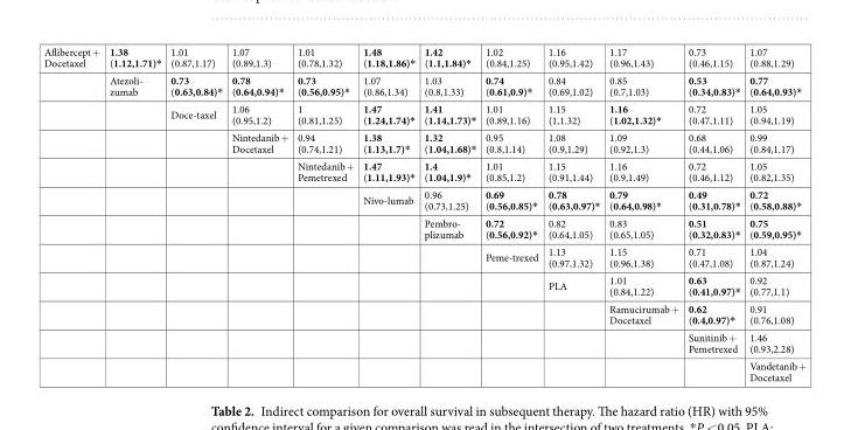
<table><tbody><tr><td rowspan="12">Aflibercept + Docetaxel</td><td>1.38 (1.12,1.71)*</td><td>1.01 (0.87,1.17)</td><td>1.07 (0.89,1.3)</td><td>1.01 (0.78,1.32)</td><td>1.48 (1.18,1.86)*</td><td>1.42 (1.1,1.84)*</td><td>1.02 (0.84,1.25)</td><td>1.16 (0.95,1.42)</td><td>1.17 (0.96,1.43)</td><td>0.73 (0.46,1.15)</td><td>1.07 (0.88,1.29)</td></tr><tr><td>Atezoli- zumab</td><td>0.73 (0.63,0.84)*</td><td>0.78 (0.64,0.94)*</td><td>0.73 (0.56,0.95)*</td><td>1.07 (0.86,1.34)</td><td>1.03 (0.8,1.33)</td><td>0.74 (0.61,0.9)*</td><td>0.84 (0.69,1.02)</td><td>0.85 (0.7,1.03)</td><td>0.53 (0.34,0.83)*</td><td>0.77 (0.64,0.93)*</td></tr><tr><td></td><td>Doce-taxel</td><td>1.06 (0.95,1.2)</td><td>1 (0.81,1.25)</td><td>1.47 (1.24,1.74)*</td><td>1.41 (1.14,1.73)*</td><td>1.01 (0.89,1.16)</td><td>1.15 (1,1.32)</td><td>1.16 (1.02,1.32)*</td><td>0.72 (0.47,1.11)</td><td>1.05 (0.94,1.19)</td></tr><tr><td></td><td></td><td>Nintedanib + Docetaxel</td><td>0.94 (0.74,1.21)</td><td>1.38 (1.13,1.7)*</td><td>1.32 (1.04,1.68)*</td><td>0.95 (0.8,1.14)</td><td>1.08 (0.9,1.29)</td><td>1.09 (0.92,1.3)</td><td>0.68 (0.44,1.06)</td><td>0.99 (0.84,1.17)</td></tr><tr><td></td><td></td><td></td><td>Nintedanib + Pemetrexed</td><td>1.47 (1.11,1.93)*</td><td>1.4 (1.04,1.9)*</td><td>1.01 (0.85,1.2)</td><td>1.15 (0.91,1.44)</td><td>1.16 (0.9,1.49)</td><td>0.72 (0.46,1.12)</td><td>1.05 (0.82,1.35)</td></tr><tr><td></td><td></td><td></td><td></td><td>Nivo-lumab</td><td>0.96 (0.73,1.25)</td><td>0.69 (0.56,0.85)*</td><td>0.78 (0.63,0.97)*</td><td>0.79 (0.64,0.98)*</td><td>0.49 (0.31,0.78)*</td><td>0.72 (0.58,0.88)*</td></tr><tr><td></td><td></td><td></td><td></td><td></td><td>Pembro- plizumab</td><td>0.72 (0.56,0.92)*</td><td>0.82 (0.64,1.05)</td><td>0.83 (0.65,1.05)</td><td>0.51 (0.32,0.83)*</td><td>0.75 (0.59,0.95)*</td></tr><tr><td></td><td></td><td></td><td></td><td></td><td></td><td>Peme-trexed</td><td>1.13 (0.97,1.32)</td><td>1.15 (0.96,1.38)</td><td>0.71 (0.47,1.08)</td><td>1.04 (0.87,1.24)</td></tr><tr><td></td><td></td><td></td><td></td><td></td><td></td><td></td><td>PLA</td><td>1.01 (0.84,1.22)</td><td>0.63 (0.41,0.97)*</td><td>0.92 (0.77,1.1)</td></tr><tr><td></td><td></td><td></td><td></td><td></td><td></td><td></td><td></td><td>Ramucirumab + Docetaxel</td><td>0.62 (0.4,0.97)*</td><td>0.91 (0.76,1.08)</td></tr><tr><td></td><td></td><td></td><td></td><td></td><td></td><td></td><td></td><td></td><td>Sunitinib + Pemetrexed</td><td>1.46 (0.93,2.28)</td></tr><tr><td></td><td></td><td></td><td></td><td></td><td></td><td></td><td></td><td></td><td></td><td>Vandetanib + Docetaxel</td></tr></tbody></table>